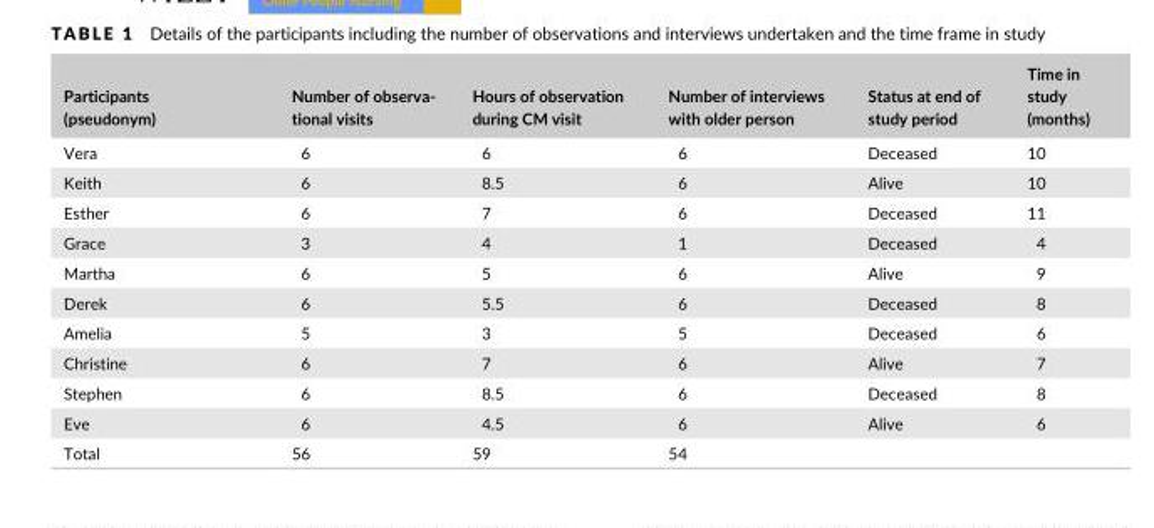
<table><thead><tr><td>Participants (pseudonym)</td><td>Number of observa- tional visits</td><td>Hours of observation during CM visit</td><td>Number of interviews with older person</td><td>Status at end of study period</td><td>Time in study (months)</td></tr></thead><tbody><tr><td>Vera</td><td>6</td><td>6</td><td>6</td><td>Deceased</td><td>10</td></tr><tr><td>Keith</td><td>6</td><td>8.5</td><td>6</td><td>Alive</td><td>10</td></tr><tr><td>Esther</td><td>6</td><td>7</td><td>6</td><td>Deceased</td><td>11</td></tr><tr><td>Grace</td><td>3</td><td>4</td><td>1</td><td>Deceased</td><td>4</td></tr><tr><td>Martha</td><td>6</td><td>5</td><td>6</td><td>Alive</td><td>9</td></tr><tr><td>Derek</td><td>6</td><td>5.5</td><td>6</td><td>Deceased</td><td>8</td></tr><tr><td>Amelia</td><td>5</td><td>3</td><td>5</td><td>Deceased</td><td>6</td></tr><tr><td>Christine</td><td>6</td><td>7</td><td>6</td><td>Alive</td><td>7</td></tr><tr><td>Stephen</td><td>6</td><td>8.5</td><td>6</td><td>Deceased</td><td>8</td></tr><tr><td>Eve</td><td>6</td><td>4.5</td><td>6</td><td>Alive</td><td>6</td></tr><tr><td>Total</td><td>56</td><td>59</td><td>54</td><td></td><td></td></tr></tbody></table>